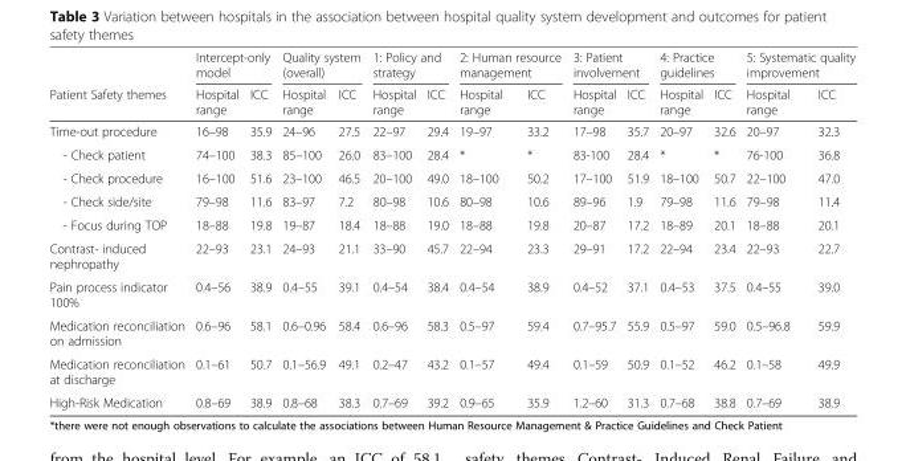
<table><thead><tr><td rowspan="2">Patient Safety themes</td><td colspan="2">Intercept-only model</td><td colspan="2">Quality system (overall)</td><td colspan="2">1: Policy and strategy</td><td colspan="2">2: Human resource management</td><td colspan="2">3: Patient involvement</td><td colspan="2">4: Practice guidelines</td><td colspan="2">5: Systematic quality improvement</td></tr><tr><td>Hospital range</td><td>ICC</td><td>Hospital range</td><td>ICC</td><td>Hospital range</td><td>ICC</td><td>Hospital range</td><td>ICC</td><td>Hospital range</td><td>ICC</td><td>Hospital range</td><td>ICC</td><td>Hospital range</td><td>ICC</td></tr></thead><tbody><tr><td>Time-out procedure</td><td>16–98</td><td>35.9</td><td>24–96</td><td>27.5</td><td>22–97</td><td>29.4</td><td>19–97</td><td>33.2</td><td>17–98</td><td>35.7</td><td>20–97</td><td>32.6</td><td>20–97</td><td>32.3</td></tr><tr><td>- Check patient</td><td>74–100</td><td>38.3</td><td>85–100</td><td>26.0</td><td>83–100</td><td>28.4</td><td>*</td><td>*</td><td>83-100</td><td>28.4</td><td>*</td><td>*</td><td>76-100</td><td>36.8</td></tr><tr><td>- Check procedure</td><td>16–100</td><td>51.6</td><td>23–100</td><td>46.5</td><td>20–100</td><td>49.0</td><td>18–100</td><td>50.2</td><td>17–100</td><td>51.9</td><td>18–100</td><td>50.7</td><td>22–100</td><td>47.0</td></tr><tr><td>- Check side/site</td><td>79–98</td><td>11.6</td><td>83–97</td><td>7.2</td><td>80–98</td><td>10.6</td><td>80–98</td><td>10.6</td><td>89–96</td><td>1.9</td><td>79–98</td><td>11.6</td><td>79–98</td><td>11.4</td></tr><tr><td>- Focus during TOP</td><td>18–88</td><td>19.8</td><td>19–87</td><td>18.4</td><td>18–88</td><td>19.0</td><td>18–88</td><td>19.8</td><td>20–87</td><td>17.2</td><td>18–89</td><td>20.1</td><td>18–88</td><td>20.1</td></tr><tr><td>Contrast- induced nephropathy</td><td>22–93</td><td>23.1</td><td>24–93</td><td>21.1</td><td>33–90</td><td>45.7</td><td>22–94</td><td>23.3</td><td>29–91</td><td>17.2</td><td>22–94</td><td>23.4</td><td>22–93</td><td>22.7</td></tr><tr><td>Pain process indicator 100%</td><td>0.4–56</td><td>38.9</td><td>0.4–55</td><td>39.1</td><td>0.4–54</td><td>38.4</td><td>0.4–54</td><td>38.9</td><td>0.4–52</td><td>37.1</td><td>0.4–53</td><td>37.5</td><td>0.4–55</td><td>39.0</td></tr><tr><td>Medication reconciliation on admission</td><td>0.6–96</td><td>58.1</td><td>0.6–0.96</td><td>58.4</td><td>0.6–96</td><td>58.3</td><td>0.5–97</td><td>59.4</td><td>0.7–95.7</td><td>55.9</td><td>0.5–97</td><td>59.0</td><td>0.5–96.8</td><td>59.9</td></tr><tr><td>Medication reconciliation at discharge</td><td>0.1–61</td><td>50.7</td><td>0.1–56.9</td><td>49.1</td><td>0.2–47</td><td>43.2</td><td>0.1–57</td><td>49.4</td><td>0.1–59</td><td>50.9</td><td>0.1–52</td><td>46.2</td><td>0.1–58</td><td>49.9</td></tr><tr><td>High-Risk Medication</td><td>0.8–69</td><td>38.9</td><td>0.8–68</td><td>38.3</td><td>0.7–69</td><td>39.2</td><td>0.9–65</td><td>35.9</td><td>1.2–60</td><td>31.3</td><td>0.7–68</td><td>38.8</td><td>0.7–69</td><td>38.9</td></tr></tbody></table>